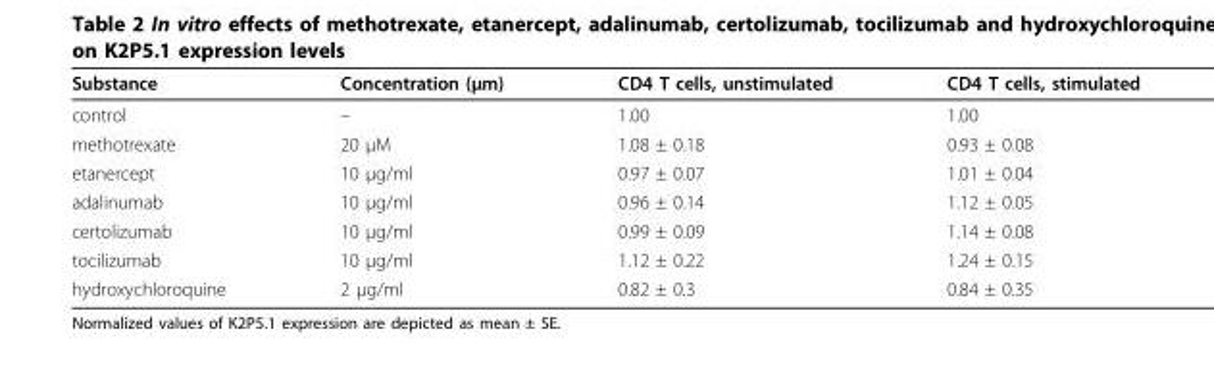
<table><thead><tr><td>Substance</td><td>Concentration (μm)</td><td>CD4 T cells, unstimulated</td><td>CD4 T cells, stimulated</td></tr></thead><tbody><tr><td>control</td><td>–</td><td>1.00</td><td>1.00</td></tr><tr><td>methotrexate</td><td>20 μM</td><td>1.08 ± 0.18</td><td>0.93 ± 0.08</td></tr><tr><td>etanercept</td><td>10 μg/ml</td><td>0.97 ± 0.07</td><td>1.01 ± 0.04</td></tr><tr><td>adalinumab</td><td>10 μg/ml</td><td>0.96 ± 0.14</td><td>1.12 ± 0.05</td></tr><tr><td>certolizumab</td><td>10 μg/ml</td><td>0.99 ± 0.09</td><td>1.14 ± 0.08</td></tr><tr><td>tocilizumab</td><td>10 μg/ml</td><td>1.12 ± 0.22</td><td>1.24 ± 0.15</td></tr><tr><td>hydroxychloroquine</td><td>2 μg/ml</td><td>0.82 ± 0.3</td><td>0.84 ± 0.35</td></tr></tbody></table>